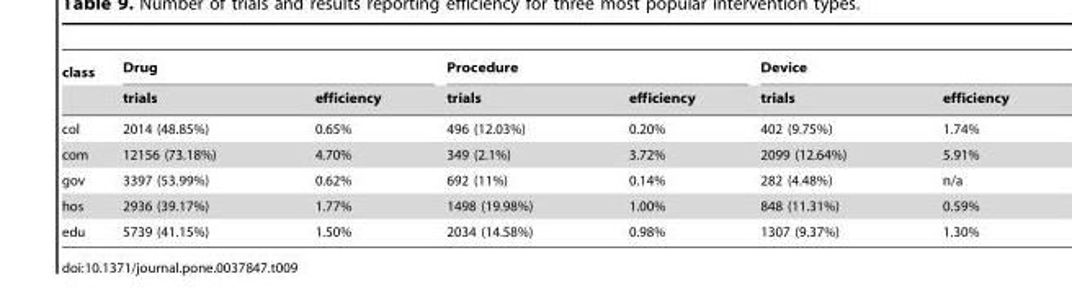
<table><thead><tr><td rowspan="2">class</td><td colspan="2">Drug</td><td colspan="2">Procedure</td><td colspan="2">Device</td></tr><tr><td>trials</td><td>efficiency</td><td>trials</td><td>efficiency</td><td>trials</td><td>efficiency</td></tr></thead><tbody><tr><td>col</td><td>2014 (48.85%)</td><td>0.65%</td><td>496 (12.03%)</td><td>0.20%</td><td>402 (9.75%)</td><td>1.74%</td></tr><tr><td>com</td><td>12156 (73.18%)</td><td>4.70%</td><td>349 (2.1%)</td><td>3.72%</td><td>2099 (12.64%)</td><td>5.91%</td></tr><tr><td>gov</td><td>3397 (53.99%)</td><td>0.62%</td><td>692 (11%)</td><td>0.14%</td><td>282 (4.48%)</td><td>n/a</td></tr><tr><td>hos</td><td>2936 (39.17%)</td><td>1.77%</td><td>1498 (19.98%)</td><td>1.00%</td><td>848 (11.31%)</td><td>0.59%</td></tr><tr><td>edu</td><td>5739 (41.15%)</td><td>1.50%</td><td>2034 (14.58%)</td><td>0.98%</td><td>1307 (9.37%)</td><td>1.30%</td></tr></tbody></table>